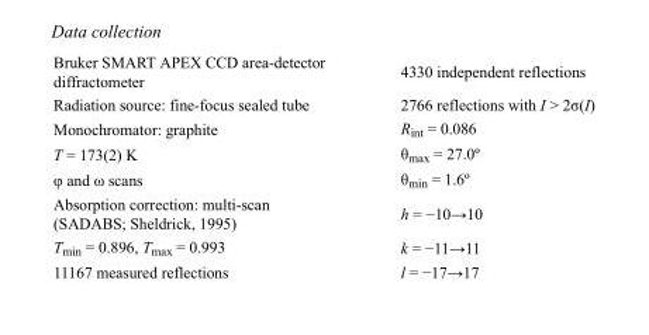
<table><tbody><tr><td>Bruker SMART APEX CCD area-detector diffractometer</td><td>4330 independent reflections</td></tr><tr><td>Radiation source: fine-focus sealed tube</td><td>2766 reflections with I &gt; 2σ(I)</td></tr><tr><td>Monochromator: graphite</td><td>R<sub>int</sub> = 0.086</td></tr><tr><td>T = 173(2) K</td><td>θ<sub>max</sub> = 27.0º</td></tr><tr><td>φ and ω scans</td><td>θ<sub>min</sub> = 1.6º</td></tr><tr><td>Absorption correction: multi-scan (SADABS; Sheldrick, 1995)</td><td>h = −10→10</td></tr><tr><td>T<sub>min</sub> = 0.896, T<sub>max</sub> = 0.993</td><td>k = −11→11</td></tr><tr><td>11167 measured reflections</td><td>l = −17→17</td></tr></tbody></table>